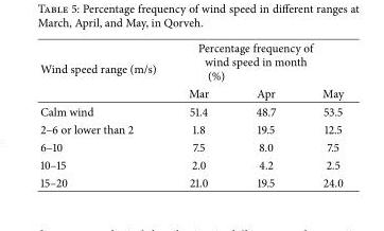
<table><thead><tr><td rowspan="2">Wind speed range (m/s)</td><td colspan="3">Percentage frequency of wind speed in month (%)</td></tr><tr><td>Mar</td><td>Apr</td><td>May</td></tr></thead><tbody><tr><td>Calm wind</td><td>51.4</td><td>48.7</td><td>53.5</td></tr><tr><td>2–6 or lower than 2</td><td>1.8</td><td>19.5</td><td>12.5</td></tr><tr><td>6–10</td><td>7.5</td><td>8.0</td><td>7.5</td></tr><tr><td>10–15</td><td>2.0</td><td>4.2</td><td>2.5</td></tr><tr><td>15–20</td><td>21.0</td><td>19.5</td><td>24.0</td></tr></tbody></table>